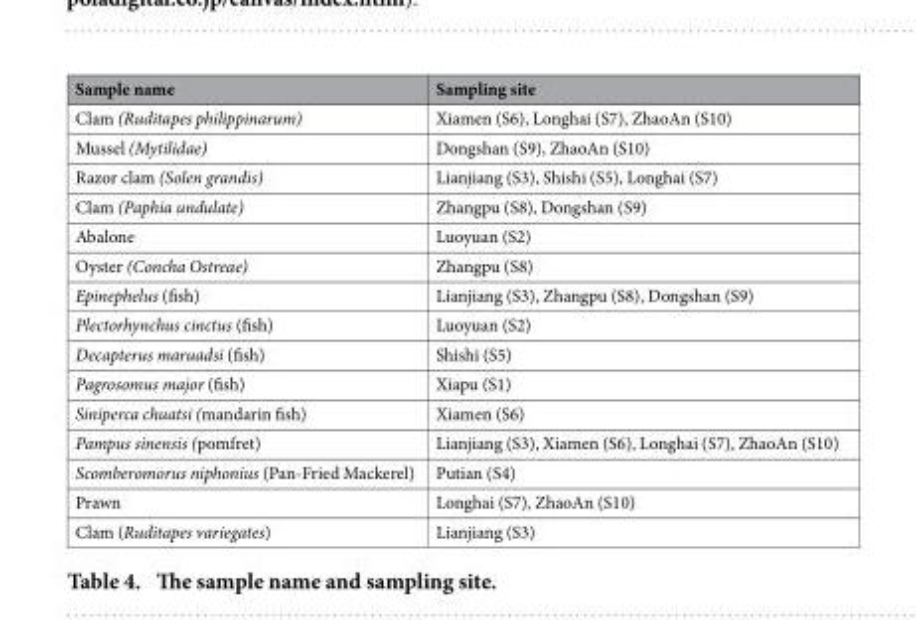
<table><thead><tr><td>Sample name</td><td>Sampling site</td></tr></thead><tbody><tr><td>Clam (Ruditapes philippinarum)</td><td>Xiamen (S6), Longhai (S7), ZhaoAn (S10)</td></tr><tr><td>Mussel (Mytilidae)</td><td>Dongshan (S9), ZhaoAn (S10)</td></tr><tr><td>Razor clam (Solen grandis)</td><td>Lianjiang (S3), Shishi (S5), Longhai (S7)</td></tr><tr><td>Clam (Paphia undulate)</td><td>Zhangpu (S8), Dongshan (S9)</td></tr><tr><td>Abalone</td><td>Luoyuan (S2)</td></tr><tr><td>Oyster (Concha Ostreae)</td><td>Zhangpu (S8)</td></tr><tr><td>Epinephelus (fish)</td><td>Lianjiang (S3), Zhangpu (S8), Dongshan (S9)</td></tr><tr><td>Plectorhynchus cinctus (fish)</td><td>Luoyuan (S2)</td></tr><tr><td>Decapterus maruadsi (fish)</td><td>Shishi (S5)</td></tr><tr><td>Pagrosomus major (fish)</td><td>Xiapu (S1)</td></tr><tr><td>Siniperca chuatsi (mandarin fish)</td><td>Xiamen (S6)</td></tr><tr><td>Pampus sinensis (pomfret)</td><td>Lianjiang (S3), Xiamen (S6), Longhai (S7), ZhaoAn (S10)</td></tr><tr><td>Scomberomorus niphonius (Pan-Fried Mackerel)</td><td>Putian (S4)</td></tr><tr><td>Prawn</td><td>Longhai (S7), ZhaoAn (S10)</td></tr><tr><td>Clam (Ruditapes variegates)</td><td>Lianjiang (S3)</td></tr></tbody></table>